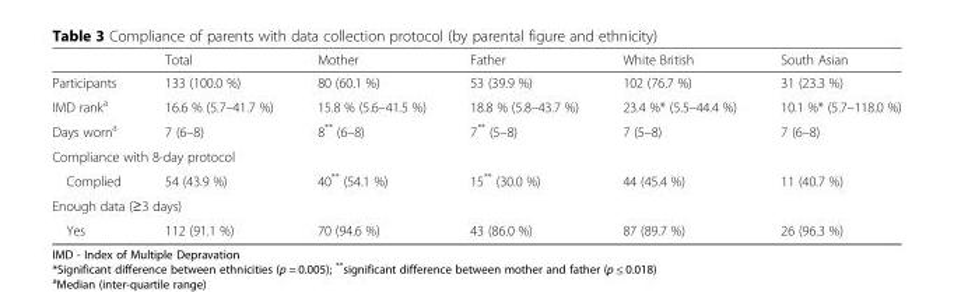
<table><thead><tr><td></td><td>Total</td><td>Mother</td><td>Father</td><td>White British</td><td>South Asian</td></tr></thead><tbody><tr><td>Participants</td><td>133 (100.0 %)</td><td>80 (60.1 %)</td><td>53 (39.9 %)</td><td>102 (76.7 %)</td><td>31 (23.3 %)</td></tr><tr><td>IMD rank<sup>a</sup></td><td>16.6 % (5.7–41.7 %)</td><td>15.8 % (5.6–41.5 %)</td><td>18.8 % (5.8–43.7 %)</td><td>23.4 %* (5.5–44.4 %)</td><td>10.1 %* (5.7–118.0 %)</td></tr><tr><td>Days worn<sup>a</sup></td><td>7 (6–8)</td><td>8** (6–8)</td><td>7** (5–8)</td><td>7 (5–8)</td><td>7 (6–8)</td></tr><tr><td colspan="6">Compliance with 8-day protocol</td></tr><tr><td>Complied</td><td>54 (43.9 %)</td><td>40** (54.1 %)</td><td>15** (30.0 %)</td><td>44 (45.4 %)</td><td>11 (40.7 %)</td></tr><tr><td colspan="6">Enough data (≥3 days)</td></tr><tr><td>Yes</td><td>112 (91.1 %)</td><td>70 (94.6 %)</td><td>43 (86.0 %)</td><td>87 (89.7 %)</td><td>26 (96.3 %)</td></tr></tbody></table>